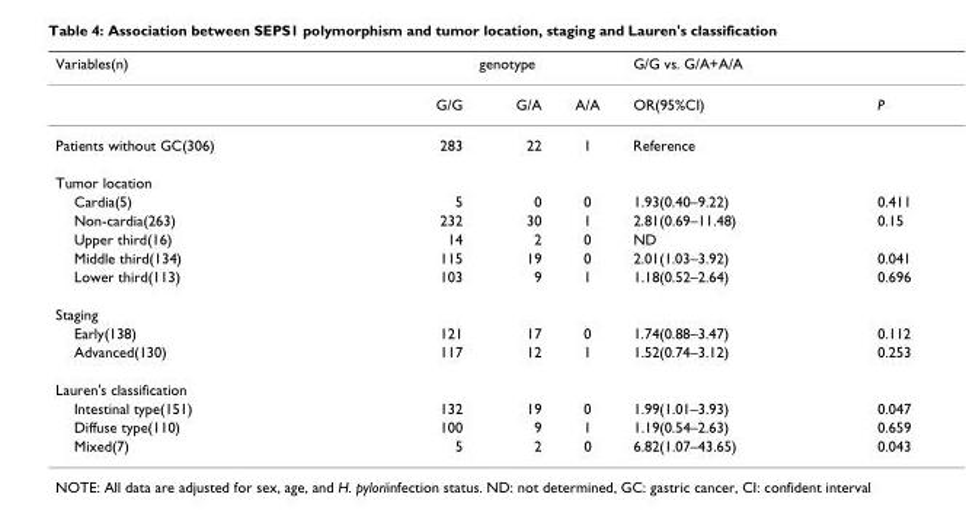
<table><thead><tr><td rowspan="2">Variables(n)</td><td colspan="3">genotype</td><td rowspan="2">G/G vs. G/A+A/A OR(95%CI)</td><td rowspan="2">P</td></tr><tr><td>G/G</td><td>G/A</td><td>A/A</td></tr></thead><tbody><tr><td>Patients without GC(306)</td><td>283</td><td>22</td><td>1</td><td>Reference</td><td></td></tr><tr><td colspan="6">Tumor location</td></tr><tr><td>Cardia(5)</td><td>5</td><td>0</td><td>0</td><td>1.93(0.40–9.22)</td><td>0.411</td></tr><tr><td>Non-cardia(263)</td><td>232</td><td>30</td><td>1</td><td>2.81(0.69–11.48)</td><td>0.15</td></tr><tr><td>Upper third(16)</td><td>14</td><td>2</td><td>0</td><td>ND</td><td></td></tr><tr><td>Middle third(134)</td><td>115</td><td>19</td><td>0</td><td>2.01(1.03–3.92)</td><td>0.041</td></tr><tr><td>Lower third(113)</td><td>103</td><td>9</td><td>1</td><td>1.18(0.52–2.64)</td><td>0.696</td></tr><tr><td colspan="6">Staging</td></tr><tr><td>Early(138)</td><td>121</td><td>17</td><td>0</td><td>1.74(0.88–3.47)</td><td>0.112</td></tr><tr><td>Advanced(130)</td><td>117</td><td>12</td><td>1</td><td>1.52(0.74–3.12)</td><td>0.253</td></tr><tr><td colspan="6">Lauren&#x27;s classification</td></tr><tr><td>Intestinal type(151)</td><td>132</td><td>19</td><td>0</td><td>1.99(1.01–3.93)</td><td>0.047</td></tr><tr><td>Diffuse type(110)</td><td>100</td><td>9</td><td>1</td><td>1.19(0.54–2.63)</td><td>0.659</td></tr><tr><td>Mixed(7)</td><td>5</td><td>2</td><td>0</td><td>6.82(1.07–43.65)</td><td>0.043</td></tr></tbody></table>